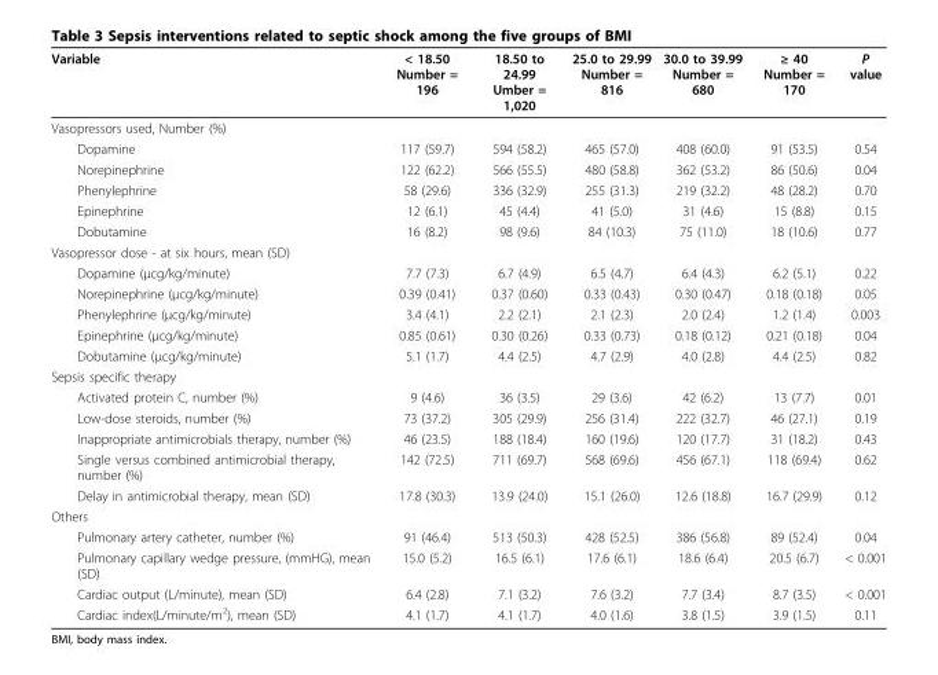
<table><thead><tr><td>Variable</td><td>&lt; 18.50 Number = 196</td><td>18.50 to 24.99 Umber = 1,020</td><td>25.0 to 29.99 Number = 816</td><td>30.0 to 39.99 Number = 680</td><td>≥ 40 Number = 170</td><td>P value</td></tr></thead><tbody><tr><td colspan="7">Vasopressors used, Number (%)</td></tr><tr><td>Dopamine</td><td>117 (59.7)</td><td>594 (58.2)</td><td>465 (57.0)</td><td>408 (60.0)</td><td>91 (53.5)</td><td>0.54</td></tr><tr><td>Norepinephrine</td><td>122 (62.2)</td><td>566 (55.5)</td><td>480 (58.8)</td><td>362 (53.2)</td><td>86 (50.6)</td><td>0.04</td></tr><tr><td>Phenylephrine</td><td>58 (29.6)</td><td>336 (32.9)</td><td>255 (31.3)</td><td>219 (32.2)</td><td>48 (28.2)</td><td>0.70</td></tr><tr><td>Epinephrine</td><td>12 (6.1)</td><td>45 (4.4)</td><td>41 (5.0)</td><td>31 (4.6)</td><td>15 (8.8)</td><td>0.15</td></tr><tr><td>Dobutamine</td><td>16 (8.2)</td><td>98 (9.6)</td><td>84 (10.3)</td><td>75 (11.0)</td><td>18 (10.6)</td><td>0.77</td></tr><tr><td colspan="7">Vasopressor dose - at six hours, mean (SD)</td></tr><tr><td>Dopamine (μcg/kg/minute)</td><td>7.7 (7.3)</td><td>6.7 (4.9)</td><td>6.5 (4.7)</td><td>6.4 (4.3)</td><td>6.2 (5.1)</td><td>0.22</td></tr><tr><td>Norepinephrine (μcg/kg/minute)</td><td>0.39 (0.41)</td><td>0.37 (0.60)</td><td>0.33 (0.43)</td><td>0.30 (0.47)</td><td>0.18 (0.18)</td><td>0.05</td></tr><tr><td>Phenylephrine (μcg/kg/minute)</td><td>3.4 (4.1)</td><td>2.2 (2.1)</td><td>2.1 (2.3)</td><td>2.0 (2.4)</td><td>1.2 (1.4)</td><td>0.003</td></tr><tr><td>Epinephrine (μcg/kg/minute)</td><td>0.85 (0.61)</td><td>0.30 (0.26)</td><td>0.33 (0.73)</td><td>0.18 (0.12)</td><td>0.21 (0.18)</td><td>0.04</td></tr><tr><td>Dobutamine (μcg/kg/minute)</td><td>5.1 (1.7)</td><td>4.4 (2.5)</td><td>4.7 (2.9)</td><td>4.0 (2.8)</td><td>4.4 (2.5)</td><td>0.82</td></tr><tr><td colspan="7">Sepsis specific therapy</td></tr><tr><td>Activated protein C, number (%)</td><td>9 (4.6)</td><td>36 (3.5)</td><td>29 (3.6)</td><td>42 (6.2)</td><td>13 (7.7)</td><td>0.01</td></tr><tr><td>Low-dose steroids, number (%)</td><td>73 (37.2)</td><td>305 (29.9)</td><td>256 (31.4)</td><td>222 (32.7)</td><td>46 (27.1)</td><td>0.19</td></tr><tr><td>Inappropriate antimicrobials therapy, number (%)</td><td>46 (23.5)</td><td>188 (18.4)</td><td>160 (19.6)</td><td>120 (17.7)</td><td>31 (18.2)</td><td>0.43</td></tr><tr><td>Single versus combined antimicrobial therapy, number (%)</td><td>142 (72.5)</td><td>711 (69.7)</td><td>568 (69.6)</td><td>456 (67.1)</td><td>118 (69.4)</td><td>0.62</td></tr><tr><td>Delay in antimicrobial therapy, mean (SD)</td><td>17.8 (30.3)</td><td>13.9 (24.0)</td><td>15.1 (26.0)</td><td>12.6 (18.8)</td><td>16.7 (29.9)</td><td>0.12</td></tr><tr><td colspan="7">Others</td></tr><tr><td>Pulmonary artery catheter, number (%)</td><td>91 (46.4)</td><td>513 (50.3)</td><td>428 (52.5)</td><td>386 (56.8)</td><td>89 (52.4)</td><td>0.04</td></tr><tr><td>Pulmonary capillary wedge pressure, (mmHG), mean (SD)</td><td>15.0 (5.2)</td><td>16.5 (6.1)</td><td>17.6 (6.1)</td><td>18.6 (6.4)</td><td>20.5 (6.7)</td><td>&lt; 0.001</td></tr><tr><td>Cardiac output (L/minute), mean (SD)</td><td>6.4 (2.8)</td><td>7.1 (3.2)</td><td>7.6 (3.2)</td><td>7.7 (3.4)</td><td>8.7 (3.5)</td><td>&lt; 0.001</td></tr><tr><td>Cardiac index(L/minute/m<sup>2</sup>), mean (SD)</td><td>4.1 (1.7)</td><td>4.1 (1.7)</td><td>4.0 (1.6)</td><td>3.8 (1.5)</td><td>3.9 (1.5)</td><td>0.11</td></tr></tbody></table>